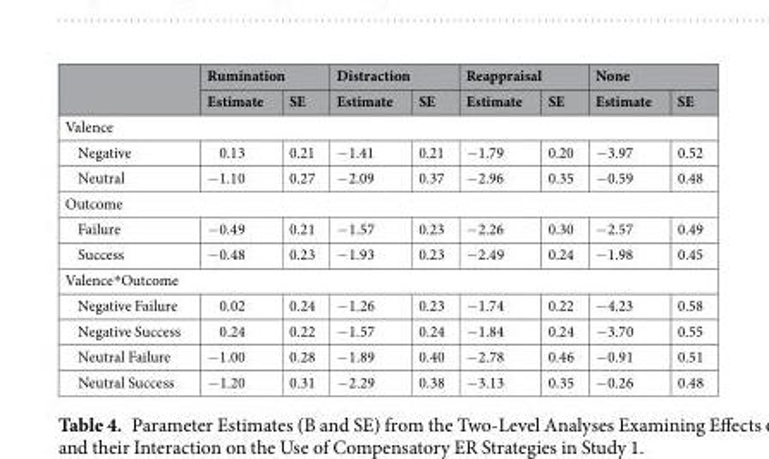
<table><thead><tr><td rowspan="2"></td><td colspan="2">Rumination</td><td colspan="2">Distraction</td><td colspan="2">Reappraisal</td><td colspan="2">None</td></tr><tr><td>Estimate</td><td>SE</td><td>Estimate</td><td>SE</td><td>Estimate</td><td>SE</td><td>Estimate</td><td>SE</td></tr></thead><tbody><tr><td colspan="9">Valence</td></tr><tr><td>Negative</td><td>0.13</td><td>0.21</td><td>−1.41</td><td>0.21</td><td>−1.79</td><td>0.20</td><td>−3.97</td><td>0.52</td></tr><tr><td>Neutral</td><td>−1.10</td><td>0.27</td><td>−2.09</td><td>0.37</td><td>−2.96</td><td>0.35</td><td>−0.59</td><td>0.48</td></tr><tr><td colspan="9">Outcome</td></tr><tr><td>Failure</td><td>−0.49</td><td>0.21</td><td>−1.57</td><td>0.23</td><td>−2.26</td><td>0.30</td><td>−2.57</td><td>0.49</td></tr><tr><td>Success</td><td>−0.48</td><td>0.23</td><td>−1.93</td><td>0.23</td><td>−2.49</td><td>0.24</td><td>−1.98</td><td>0.45</td></tr><tr><td colspan="9">Valence*Outcome</td></tr><tr><td>Negative Failure</td><td>0.02</td><td>0.24</td><td>−1.26</td><td>0.23</td><td>−1.74</td><td>0.22</td><td>−4.23</td><td>0.58</td></tr><tr><td>Negative Success</td><td>0.24</td><td>0.22</td><td>−1.57</td><td>0.24</td><td>−1.84</td><td>0.24</td><td>−3.70</td><td>0.55</td></tr><tr><td>Neutral Failure</td><td>−1.00</td><td>0.28</td><td>−1.89</td><td>0.40</td><td>−2.78</td><td>0.46</td><td>−0.91</td><td>0.51</td></tr><tr><td>Neutral Success</td><td>−1.20</td><td>0.31</td><td>−2.29</td><td>0.38</td><td>−3.13</td><td>0.35</td><td>−0.26</td><td>0.48</td></tr></tbody></table>